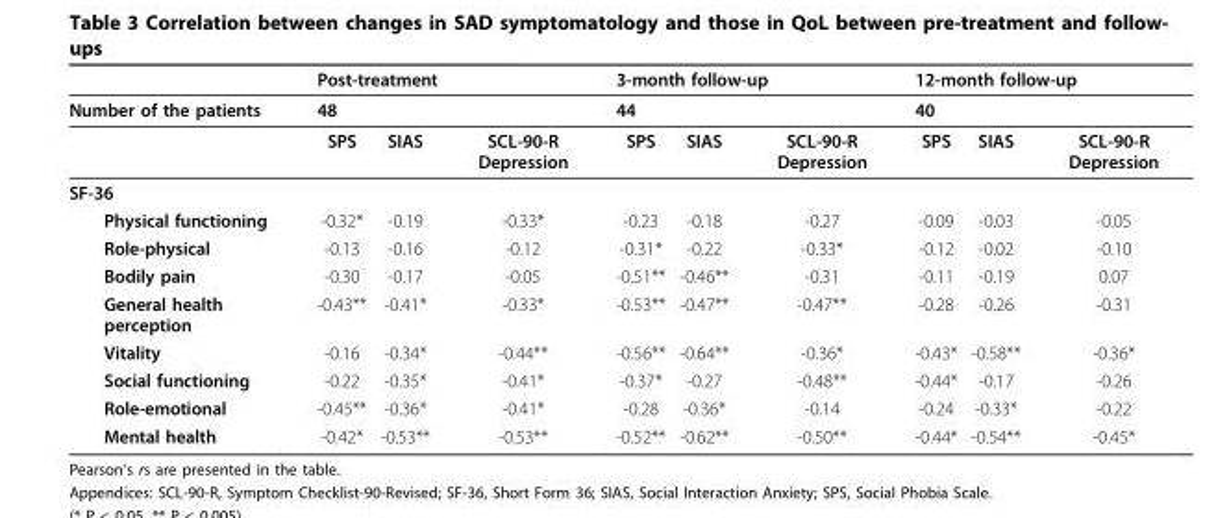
<table><thead><tr><td rowspan="3">Number of the patients</td><td rowspan="2" colspan="3">Post-treatment 48</td><td rowspan="2" colspan="3">3-month follow-up 44</td><td rowspan="2" colspan="3">12-month follow-up 40</td></tr><tr></tr><tr><td>SPS</td><td>SIAS</td><td>SCL-90-R Depression</td><td>SPS</td><td>SIAS</td><td>SCL-90-R Depression</td><td>SPS</td><td>SIAS</td><td>SCL-90-R Depression</td></tr></thead><tbody><tr><td colspan="10">SF-36</td></tr><tr><td>Physical functioning</td><td>-0.32*</td><td>-0.19</td><td>-0.33*</td><td>-0.23</td><td>-0.18</td><td>-0.27</td><td>-0.09</td><td>-0.03</td><td>-0.05</td></tr><tr><td>Role-physical</td><td>-0.13</td><td>-0.16</td><td>-0.12</td><td>-0.31*</td><td>-0.22</td><td>-0.33*</td><td>-0.12</td><td>-0.02</td><td>-0.10</td></tr><tr><td>Bodily pain</td><td>-0.30</td><td>-0.17</td><td>-0.05</td><td>-0.51**</td><td>-0.46**</td><td>-0.31</td><td>-0.11</td><td>-0.19</td><td>0.07</td></tr><tr><td>General health perception</td><td>-0.43**</td><td>-0.41*</td><td>-0.33*</td><td>-0.53**</td><td>-0.47**</td><td>-0.47**</td><td>-0.28</td><td>-0.26</td><td>-0.31</td></tr><tr><td>Vitality</td><td>-0.16</td><td>-0.34*</td><td>-0.44**</td><td>-0.56**</td><td>-0.64**</td><td>-0.36*</td><td>-0.43*</td><td>-0.58**</td><td>-0.36*</td></tr><tr><td>Social functioning</td><td>-0.22</td><td>-0.35*</td><td>-0.41*</td><td>-0.37*</td><td>-0.27</td><td>-0.48**</td><td>-0.44*</td><td>-0.17</td><td>-0.26</td></tr><tr><td>Role-emotional</td><td>-0.45**</td><td>-0.36*</td><td>-0.41*</td><td>-0.28</td><td>-0.36*</td><td>-0.14</td><td>-0.24</td><td>-0.33*</td><td>-0.22</td></tr><tr><td>Mental health</td><td>-0.42*</td><td>-0.53**</td><td>-0.53**</td><td>-0.52**</td><td>-0.62**</td><td>-0.50**</td><td>-0.44*</td><td>-0.54**</td><td>-0.45*</td></tr></tbody></table>